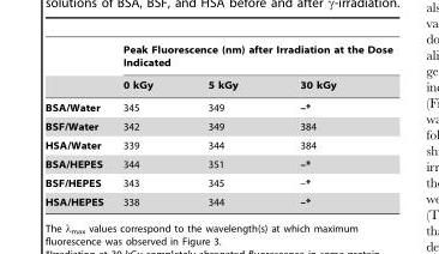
<table><thead><tr><td rowspan="2"></td><td colspan="3">Peak Fluorescence (nm) after Irradiation at the Dose Indicated</td></tr><tr><td>0 kGy</td><td>5 kGy</td><td>30 kGy</td></tr></thead><tbody><tr><td>BSA/Water</td><td>345</td><td>349</td><td>–*</td></tr><tr><td>BSF/Water</td><td>342</td><td>349</td><td>384</td></tr><tr><td>HSA/Water</td><td>339</td><td>344</td><td>384</td></tr><tr><td>BSA/HEPES</td><td>344</td><td>351</td><td>–*</td></tr><tr><td>BSF/HEPES</td><td>343</td><td>345</td><td>–*</td></tr><tr><td>HSA/HEPES</td><td>338</td><td>344</td><td>–*</td></tr></tbody></table>